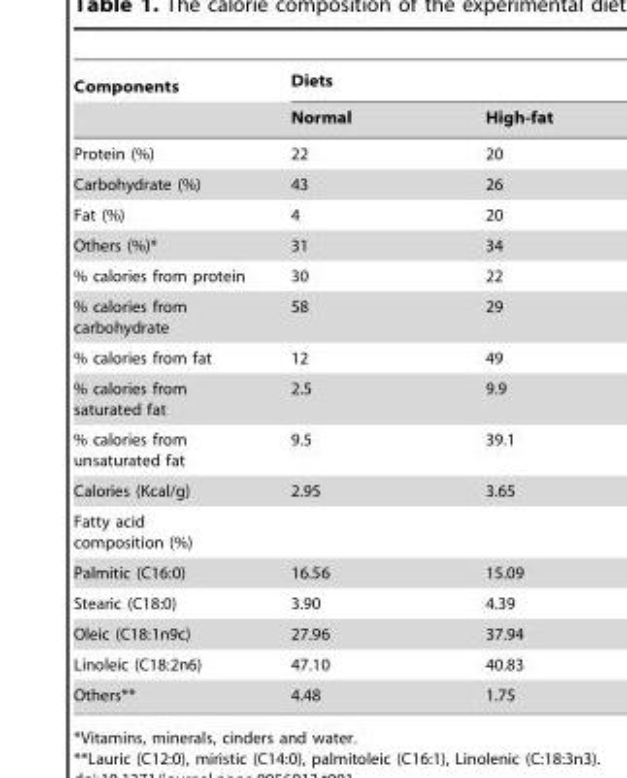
<table><thead><tr><td rowspan="2">Components</td><td colspan="2">Diets</td></tr><tr><td>Normal</td><td>High-fat</td></tr></thead><tbody><tr><td>Protein (%)</td><td>22</td><td>20</td></tr><tr><td>Carbohydrate (%)</td><td>43</td><td>26</td></tr><tr><td>Fat (%)</td><td>4</td><td>20</td></tr><tr><td>Others (%)*</td><td>31</td><td>34</td></tr><tr><td>% calories from protein</td><td>30</td><td>22</td></tr><tr><td>% calories from carbohydrate</td><td>58</td><td>29</td></tr><tr><td>% calories from fat</td><td>12</td><td>49</td></tr><tr><td>% calories from saturated fat</td><td>2.5</td><td>9.9</td></tr><tr><td>% calories from unsaturated fat</td><td>9.5</td><td>39.1</td></tr><tr><td>Calories (Kcal/g)</td><td>2.95</td><td>3.65</td></tr><tr><td colspan="3">Fatty acid composition (%)</td></tr><tr><td>Palmitic (C16:0)</td><td>16.56</td><td>15.09</td></tr><tr><td>Stearic (C18:0)</td><td>3.90</td><td>4.39</td></tr><tr><td>Oleic (C18:1n9c)</td><td>27.96</td><td>37.94</td></tr><tr><td>Linoleic (C18:2n6)</td><td>47.10</td><td>40.83</td></tr><tr><td>Others**</td><td>4.48</td><td>1.75</td></tr></tbody></table>